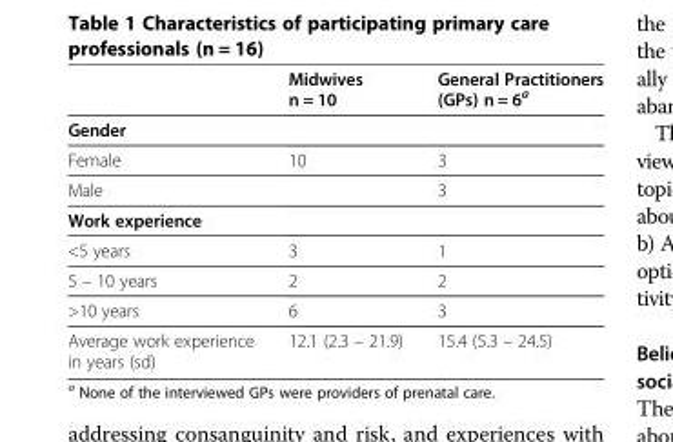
<table><thead><tr><td></td><td>Midwives n = 10</td><td>General Practitioners (GPs) n = 6<sup>a</sup></td></tr></thead><tbody><tr><td colspan="3">Gender</td></tr><tr><td>Female</td><td>10</td><td>3</td></tr><tr><td>Male</td><td></td><td>3</td></tr><tr><td colspan="3">Work experience</td></tr><tr><td>&lt;5 years</td><td>3</td><td>1</td></tr><tr><td>5 – 10 years</td><td>2</td><td>2</td></tr><tr><td>&gt;10 years</td><td>6</td><td>3</td></tr><tr><td>Average work experience in years (sd)</td><td>12.1 (2.3 – 21.9)</td><td>15.4 (5.3 – 24.5)</td></tr></tbody></table>